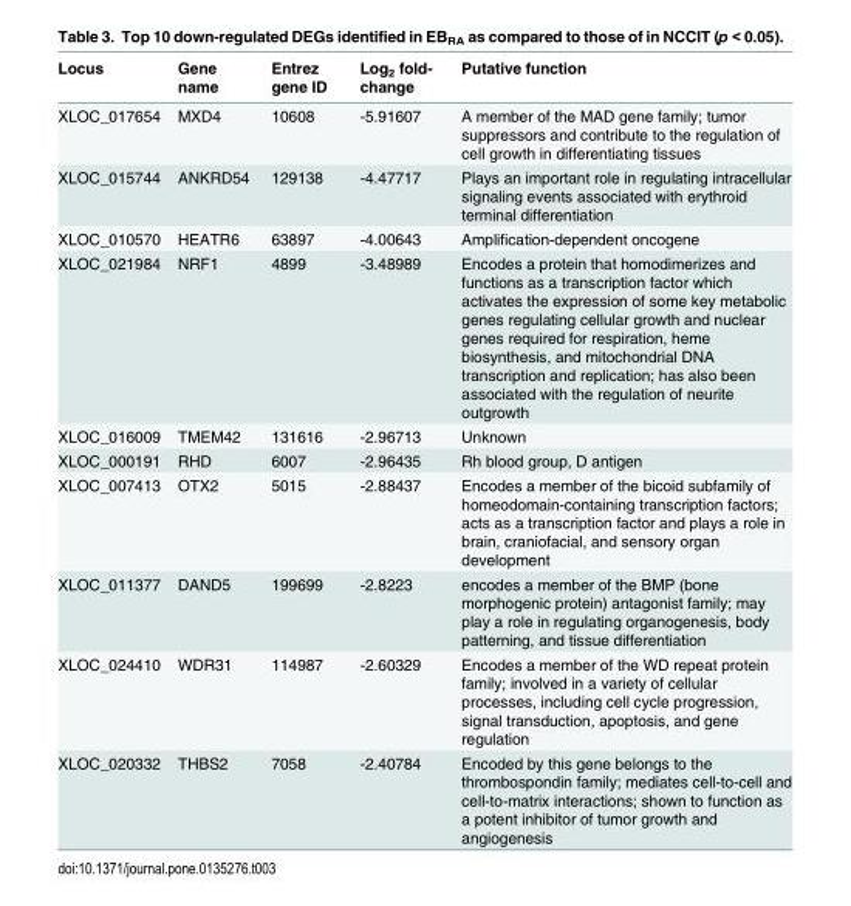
<table><thead><tr><td>Locus</td><td>Gene name</td><td>Entrez gene ID</td><td>Log<sub>2</sub> fold- change</td><td>Putative function</td></tr></thead><tbody><tr><td>XLOC_017654</td><td>MXD4</td><td>10608</td><td>-5.91607</td><td>A member of the MAD gene family; tumor suppressors and contribute to the regulation of cell growth in differentiating tissues</td></tr><tr><td>XLOC_015744</td><td>ANKRD54</td><td>129138</td><td>-4.47717</td><td>Plays an important role in regulating intracellular signaling events associated with erythroid terminal differentiation</td></tr><tr><td>XLOC_010570</td><td>HEATR6</td><td>63897</td><td>-4.00643</td><td>Amplification-dependent oncogene</td></tr><tr><td>XLOC_021984</td><td>NRF1</td><td>4899</td><td>-3.48989</td><td>Encodes a protein that homodimerizes and functions as a transcription factor which activates the expression of some key metabolic genes regulating cellular growth and nuclear genes required for respiration, heme biosynthesis, and mitochondrial DNA transcription and replication; has also been associated with the regulation of neurite outgrowth</td></tr><tr><td>XLOC_016009</td><td>TMEM42</td><td>131616</td><td>-2.96713</td><td>Unknown</td></tr><tr><td>XLOC_000191</td><td>RHD</td><td>6007</td><td>-2.96435</td><td>Rh blood group, D antigen</td></tr><tr><td>XLOC_007413</td><td>OTX2</td><td>5015</td><td>-2.88437</td><td>Encodes a member of the bicoid subfamily of homeodomain-containing transcription factors; acts as a transcription factor and plays a role in brain, craniofacial, and sensory organ development</td></tr><tr><td>XLOC_011377</td><td>DAND5</td><td>199699</td><td>-2.8223</td><td>encodes a member of the BMP (bone morphogenic protein) antagonist family; may play a role in regulating organogenesis, body patterning, and tissue differentiation</td></tr><tr><td>XLOC_024410</td><td>WDR31</td><td>114987</td><td>-2.60329</td><td>Encodes a member of the WD repeat protein family; involved in a variety of cellular processes, including cell cycle progression, signal transduction, apoptosis, and gene regulation</td></tr><tr><td>XLOC_020332</td><td>THBS2</td><td>7058</td><td>-2.40784</td><td>Encoded by this gene belongs to the thrombospondin family; mediates cell-to-cell and cell-to-matrix interactions; shown to function as a potent inhibitor of tumor growth and angiogenesis</td></tr></tbody></table>